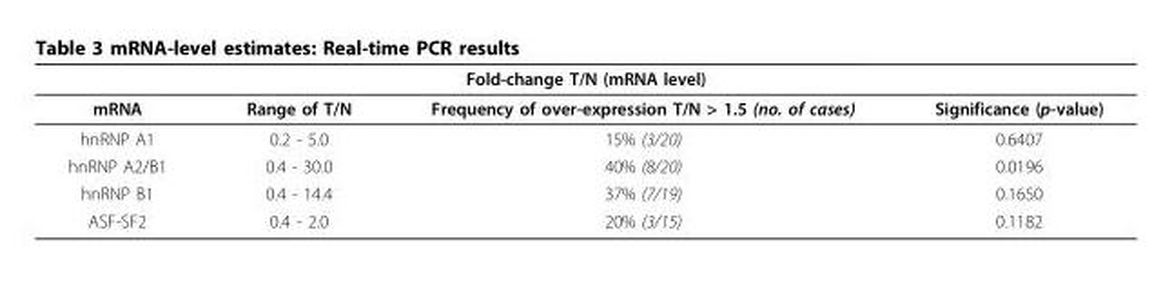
<table><thead><tr><td colspan="4">Fold-change T/N (mRNA level)</td></tr><tr><td>mRNA</td><td>Range of T/N</td><td>Frequency of over-expression T/N &gt; 1.5 (no. of cases)</td><td>Significance (p-value)</td></tr></thead><tbody><tr><td>hnRNP A1</td><td>0.2 - 5.0</td><td>15% (3/20)</td><td>0.6407</td></tr><tr><td>hnRNP A2/B1</td><td>0.4 - 30.0</td><td>40% (8/20)</td><td>0.0196</td></tr><tr><td>hnRNP B1</td><td>0.4 - 14.4</td><td>37% (7/19)</td><td>0.1650</td></tr><tr><td>ASF-SF2</td><td>0.4 - 2.0</td><td>20% (3/15)</td><td>0.1182</td></tr></tbody></table>